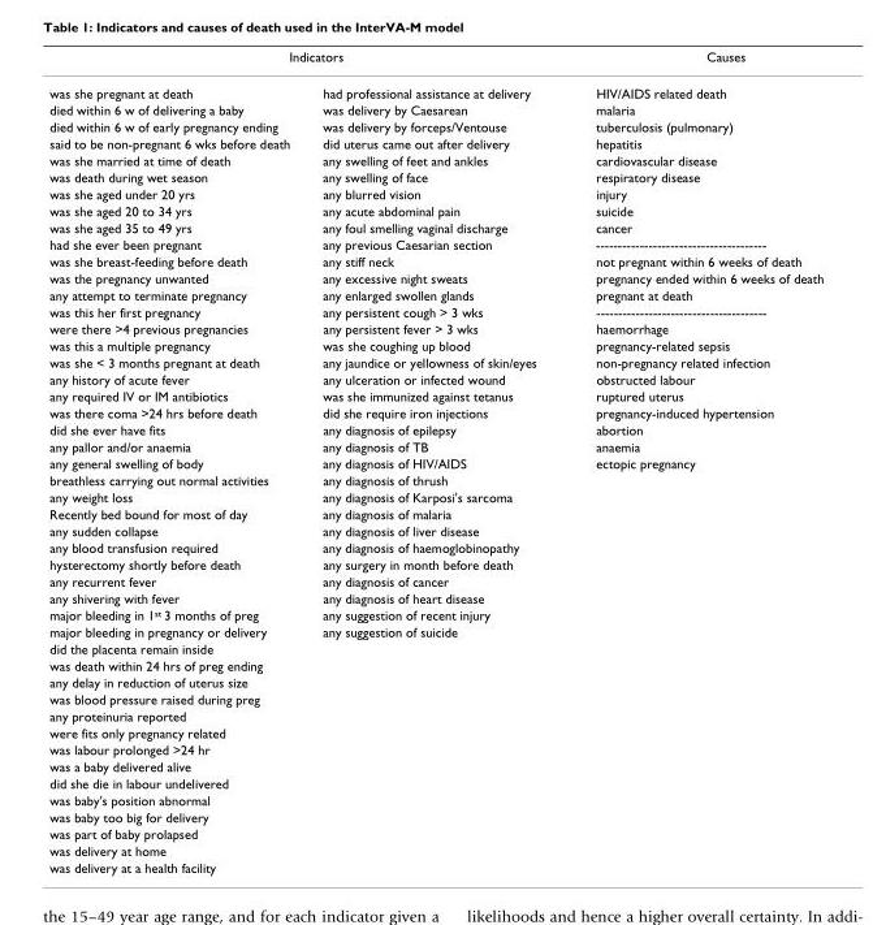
<table><thead><tr><td colspan="2">Indicators</td><td rowspan="2">Causes HIV/AIDS related death</td></tr><tr><td>was she pregnant at death</td><td>had professional assistance at delivery</td></tr></thead><tbody><tr><td>died within 6 w of delivering a baby</td><td>was delivery by Caesarean</td><td>malaria</td></tr><tr><td>died within 6 w of early pregnancy ending</td><td>was delivery by forceps/Ventouse</td><td>tuberculosis (pulmonary)</td></tr><tr><td>said to be non-pregnant 6 wks before death</td><td>did uterus came out after delivery</td><td>hepatitis</td></tr><tr><td>was she married at time of death</td><td>any swelling of feet and ankles</td><td>cardiovascular disease</td></tr><tr><td>was death during wet season</td><td>any swelling of face</td><td>respiratory disease</td></tr><tr><td>was she aged under 20 yrs</td><td>any blurred vision</td><td>injury</td></tr><tr><td>was she aged 20 to 34 yrs</td><td>any acute abdominal pain</td><td>suicide</td></tr><tr><td>was she aged 35 to 49 yrs</td><td>any foul smelling vaginal discharge</td><td>cancer</td></tr><tr><td>had she ever been pregnant</td><td>any previous Caesarian section</td><td>---------------------------------------</td></tr><tr><td>was she breast-feeding before death</td><td>any stiff neck</td><td>not pregnant within 6 weeks of death</td></tr><tr><td>was the pregnancy unwanted</td><td>any excessive night sweats</td><td>pregnancy ended within 6 weeks of death</td></tr><tr><td>any attempt to terminate pregnancy</td><td>any enlarged swollen glands</td><td>pregnant at death</td></tr><tr><td>was this her first pregnancy</td><td>any persistent cough &gt; 3 wks</td><td>---------------------------------------</td></tr><tr><td>were there &gt;4 previous pregnancies</td><td>any persistent fever &gt; 3 wks</td><td>haemorrhage</td></tr><tr><td>was this a multiple pregnancy</td><td>was she coughing up blood</td><td>pregnancy-related sepsis</td></tr><tr><td>was she &lt; 3 months pregnant at death</td><td>any jaundice or yellowness of skin/eyes</td><td>non-pregnancy related infection</td></tr><tr><td>any history of acute fever</td><td>any ulceration or infected wound</td><td>obstructed labour</td></tr><tr><td>any required IV or IM antibiotics</td><td>was she immunized against tetanus</td><td>ruptured uterus</td></tr><tr><td>was there coma &gt;24 hrs before death</td><td>did she require iron injections</td><td>pregnancy-induced hypertension</td></tr><tr><td>did she ever have fits</td><td>any diagnosis of epilepsy</td><td>abortion</td></tr><tr><td>any pallor and/or anaemia</td><td>any diagnosis of TB</td><td>anaemia</td></tr><tr><td>any general swelling of body</td><td>any diagnosis of HIV/AIDS</td><td>ectopic pregnancy</td></tr><tr><td>breathless carrying out normal activities</td><td>any diagnosis of thrush</td><td></td></tr><tr><td>any weight loss</td><td>any diagnosis of Karposi&#x27;s sarcoma</td><td></td></tr><tr><td>Recently bed bound for most of day</td><td>any diagnosis of malaria</td><td></td></tr><tr><td>any sudden collapse</td><td>any diagnosis of liver disease</td><td></td></tr><tr><td>any blood transfusion required</td><td>any diagnosis of haemoglobinopathy</td><td></td></tr><tr><td>hysterectomy shortly before death</td><td>any surgery in month before death</td><td></td></tr><tr><td>any recurrent fever</td><td>any diagnosis of cancer</td><td></td></tr><tr><td>any shivering with fever</td><td>any diagnosis of heart disease</td><td></td></tr><tr><td>major bleeding in 1<sup>st</sup> 3 months of preg</td><td>any suggestion of recent injury</td><td></td></tr><tr><td>major bleeding in pregnancy or delivery</td><td>any suggestion of suicide</td><td></td></tr><tr><td colspan="3">did the placenta remain inside</td></tr><tr><td colspan="3">was death within 24 hrs of preg ending</td></tr><tr><td colspan="3">any delay in reduction of uterus size</td></tr><tr><td colspan="3">was blood pressure raised during preg</td></tr><tr><td colspan="3">any proteinuria reported</td></tr><tr><td colspan="3">were fits only pregnancy related</td></tr><tr><td colspan="3">was labour prolonged &gt;24 hr</td></tr><tr><td colspan="3">was a baby delivered alive</td></tr><tr><td colspan="3">did she die in labour undelivered</td></tr><tr><td colspan="3">was baby&#x27;s position abnormal</td></tr><tr><td colspan="3">was baby too big for delivery</td></tr><tr><td colspan="3">was part of baby prolapsed</td></tr><tr><td colspan="3">was delivery at home</td></tr><tr><td>was delivery at a health facility</td><td></td><td></td></tr></tbody></table>